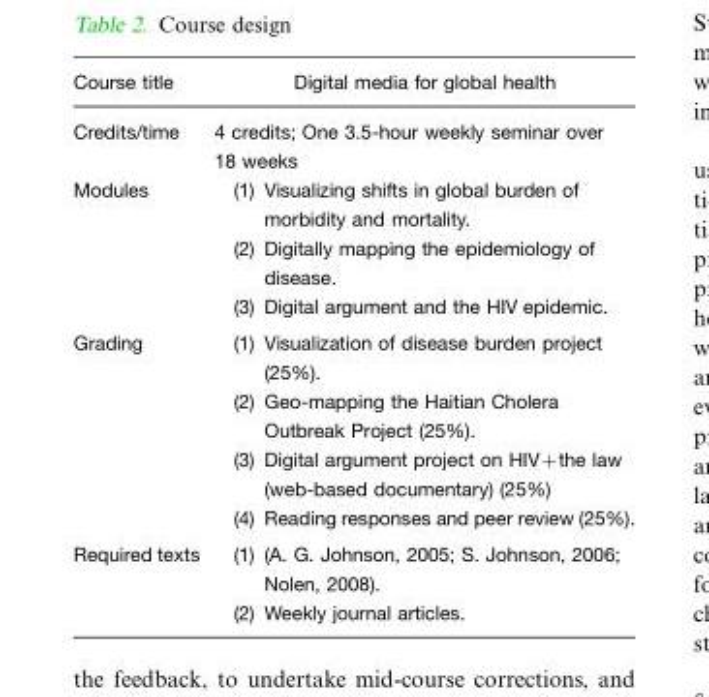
<table><thead><tr><td>Course title</td><td>Digital media for global health</td></tr></thead><tbody><tr><td>Credits/time</td><td>4 credits; One 3.5-hour weekly seminar over 18 weeks</td></tr><tr><td>Modules</td><td>(1) Visualizing shifts in global burden of morbidity and mortality. (2) Digitally mapping the epidemiology of disease. (3) Digital argument and the HIV epidemic.</td></tr><tr><td>Grading</td><td>(1) Visualization of disease burden project (25%). (2) Geo-mapping the Haitian Cholera Outbreak Project (25%). (3) Digital argument project on HIV+the law (web-based documentary) (25%) (4) Reading responses and peer review (25%).</td></tr><tr><td>Required texts</td><td>(1) (A. G. Johnson, 2005; S. Johnson, 2006; Nolen, 2008). (2) Weekly journal articles.</td></tr></tbody></table>